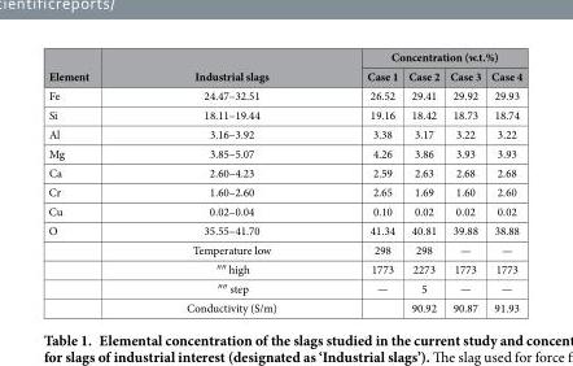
<table><thead><tr><td rowspan="2">Element</td><td rowspan="2">Industrial slags</td><td colspan="4">Concentration (w.t.%)</td></tr><tr><td>Case 1</td><td>Case 2</td><td>Case 3</td><td>Case 4</td></tr></thead><tbody><tr><td>Fe</td><td>24.47–32.51</td><td>26.52</td><td>29.41</td><td>29.92</td><td>29.93</td></tr><tr><td>Si</td><td>18.11–19.44</td><td>19.16</td><td>18.42</td><td>18.73</td><td>18.74</td></tr><tr><td>Al</td><td>3.16–3.92</td><td>3.38</td><td>3.17</td><td>3.22</td><td>3.22</td></tr><tr><td>Mg</td><td>3.85–5.07</td><td>4.26</td><td>3.86</td><td>3.93</td><td>3.93</td></tr><tr><td>Ca</td><td>2.60–4.23</td><td>2.59</td><td>2.63</td><td>2.68</td><td>2.68</td></tr><tr><td>Cr</td><td>1.60–2.60</td><td>2.65</td><td>1.69</td><td>1.60</td><td>2.60</td></tr><tr><td>Cu</td><td>0.02–0.04</td><td>0.10</td><td>0.02</td><td>0.02</td><td>0.02</td></tr><tr><td rowspan="5">O</td><td>35.55–41.70</td><td>41.34</td><td>40.81</td><td>39.88</td><td>38.88</td></tr><tr><td>Temperature low</td><td>298</td><td>298</td><td>—</td><td>—</td></tr><tr><td>″″ high</td><td>1773</td><td>2273</td><td>1773</td><td>1773</td></tr><tr><td>″″ step</td><td>—</td><td>5</td><td>—</td><td>—</td></tr><tr><td>Conductivity (S/m)</td><td></td><td>90.92</td><td>90.87</td><td>91.93</td></tr></tbody></table>